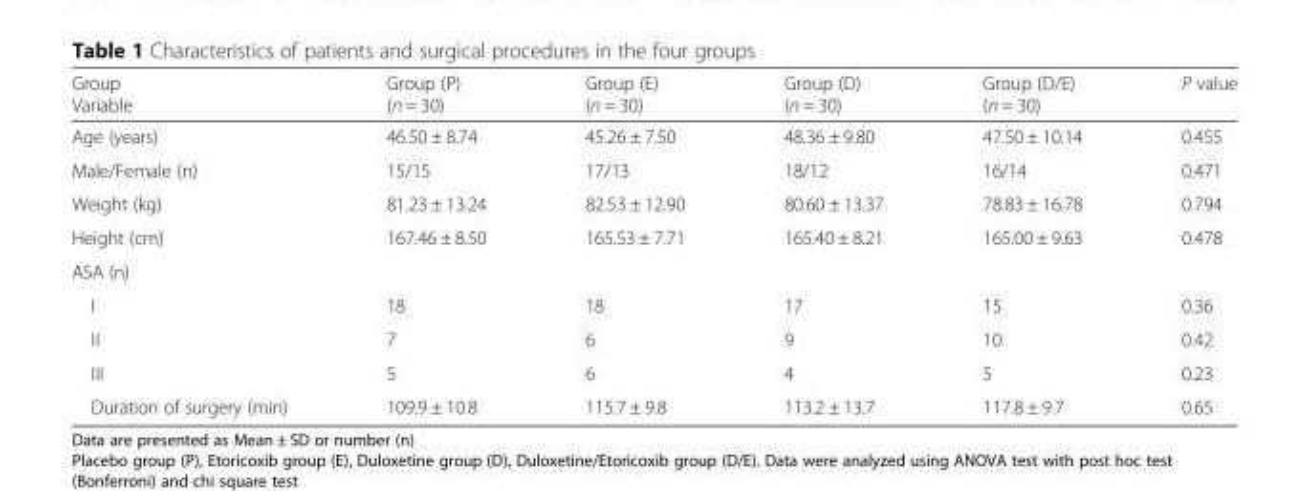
<table><thead><tr><td>Group Variable</td><td>Group (P) (n = 30)</td><td>Group (E) (n = 30)</td><td>Group (D) (n = 30)</td><td>Group (D/E) (n = 30)</td><td>P value</td></tr></thead><tbody><tr><td>Age (years)</td><td>46.50 ± 8.74</td><td>45.26 ± 7.50</td><td>48.36 ± 9.80</td><td>47.50 ± 10.14</td><td>0.455</td></tr><tr><td>Male/Female (n)</td><td>15/15</td><td>17/13</td><td>18/12</td><td>16/14</td><td>0.471</td></tr><tr><td>Weight (kg)</td><td>81.23 ± 13.24</td><td>82.53 ± 12.90</td><td>80.60 ± 13.37</td><td>78.83 ± 16.78</td><td>0.794</td></tr><tr><td>Height (cm)</td><td>167.46 ± 8.50</td><td>165.53 ± 7.71</td><td>165.40 ± 8.21</td><td>165.00 ± 9.63</td><td>0.478</td></tr><tr><td colspan="6">ASA (n)</td></tr><tr><td>I</td><td>18</td><td>18</td><td>17</td><td>15</td><td>0.36</td></tr><tr><td>II</td><td>7</td><td>6</td><td>9</td><td>10</td><td>0.42</td></tr><tr><td>III</td><td>5</td><td>6</td><td>4</td><td>5</td><td>0.23</td></tr><tr><td>Duration of surgery (min)</td><td>109.9 ± 10.8</td><td>115.7 ± 9.8</td><td>113.2 ± 13.7</td><td>117.8 ± 9.7</td><td>0.65</td></tr></tbody></table>